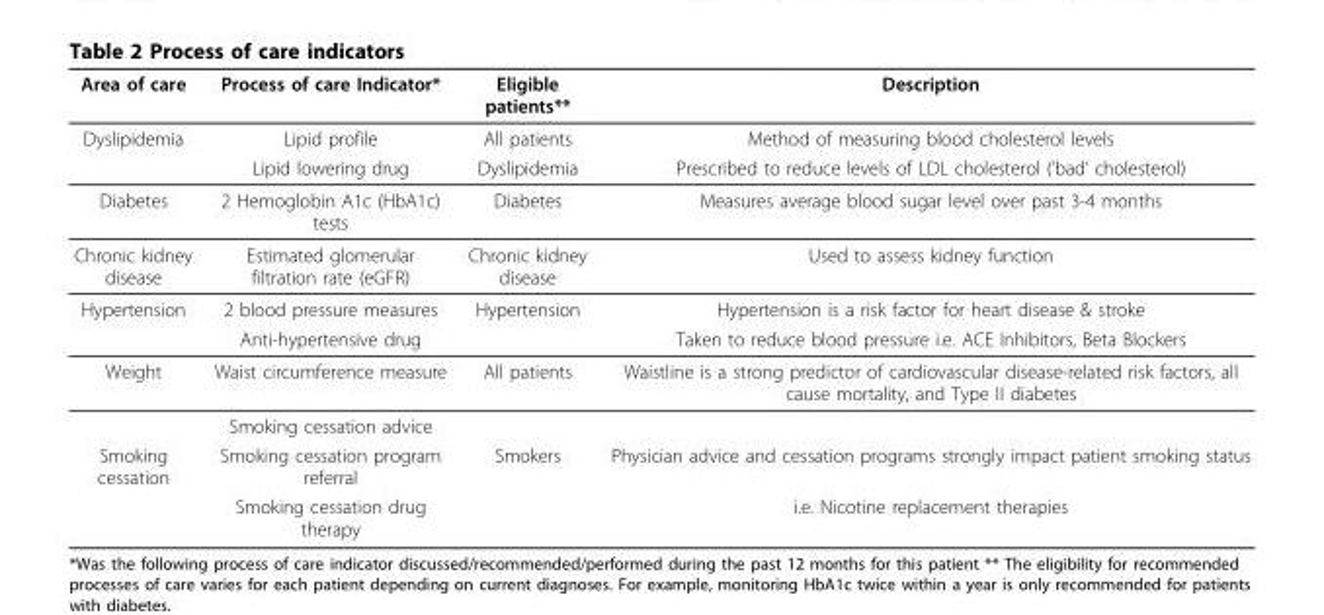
<table><thead><tr><td>Area of care</td><td>Process of care Indicator*</td><td>Eligible patients**</td><td>Description</td></tr></thead><tbody><tr><td rowspan="2">Dyslipidemia</td><td>Lipid profile</td><td>All patients</td><td>Method of measuring blood cholesterol levels</td></tr><tr><td>Lipid lowering drug</td><td>Dyslipidemia</td><td>Prescribed to reduce levels of LDL cholesterol (’bad’ cholesterol)</td></tr><tr><td>Diabetes</td><td>2 Hemoglobin A1c (HbA1c) tests</td><td>Diabetes</td><td>Measures average blood sugar level over past 3-4 months</td></tr><tr><td>Chronic kidney disease</td><td>Estimated glomerular filtration rate (eGFR)</td><td>Chronic kidney disease</td><td>Used to assess kidney function</td></tr><tr><td rowspan="2">Hypertension</td><td>2 blood pressure measures</td><td>Hypertension</td><td>Hypertension is a risk factor for heart disease &amp; stroke</td></tr><tr><td>Anti-hypertensive drug</td><td></td><td>Taken to reduce blood pressure i.e. ACE Inhibitors, Beta Blockers</td></tr><tr><td rowspan="2">Weight</td><td>Waist circumference measure</td><td>All patients</td><td>Waistline is a strong predictor of cardiovascular disease-related risk factors, all cause mortality, and Type II diabetes</td></tr><tr><td>Smoking cessation advice</td><td></td><td></td></tr><tr><td rowspan="2">Smoking cessation</td><td>Smoking cessation program referral</td><td>Smokers</td><td>Physician advice and cessation programs strongly impact patient smoking status</td></tr><tr><td>Smoking cessation drug therapy</td><td></td><td>i.e. Nicotine replacement therapies</td></tr></tbody></table>